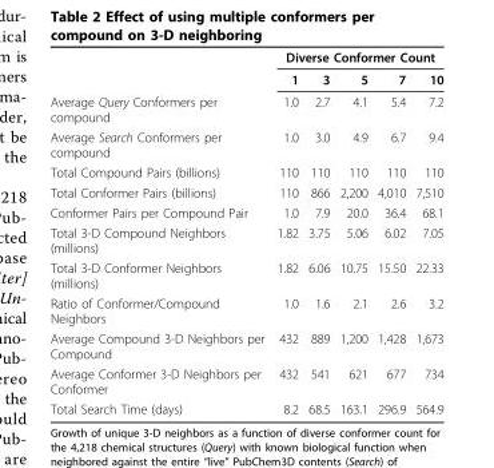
<table><thead><tr><td rowspan="2"></td><td colspan="5">Diverse Conformer Count</td></tr><tr><td>1</td><td>3</td><td>5</td><td>7</td><td>10</td></tr></thead><tbody><tr><td>Average Query Conformers per compound</td><td>1.0</td><td>2.7</td><td>4.1</td><td>5.4</td><td>7.2</td></tr><tr><td>Average Search Conformers per compound</td><td>1.0</td><td>3.0</td><td>4.9</td><td>6.7</td><td>9.4</td></tr><tr><td>Total Compound Pairs (billions)</td><td>110</td><td>110</td><td>110</td><td>110</td><td>110</td></tr><tr><td>Total Conformer Pairs (billions)</td><td>110</td><td>866</td><td>2,200</td><td>4,010</td><td>7,510</td></tr><tr><td>Conformer Pairs per Compound Pair</td><td>1.0</td><td>7.9</td><td>20.0</td><td>36.4</td><td>68.1</td></tr><tr><td>Total 3-D Compound Neighbors (millions)</td><td>1.82</td><td>3.75</td><td>5.06</td><td>6.02</td><td>7.05</td></tr><tr><td>Total 3-D Conformer Neighbors (millions)</td><td>1.82</td><td>6.06</td><td>10.75</td><td>15.50</td><td>22.33</td></tr><tr><td>Ratio of Conformer/Compound Neighbors</td><td>1.0</td><td>1.6</td><td>2.1</td><td>2.6</td><td>3.2</td></tr><tr><td>Average Compound 3-D Neighbors per Compound</td><td>432</td><td>889</td><td>1,200</td><td>1,428</td><td>1,673</td></tr><tr><td>Average Conformer 3-D Neighbors per Conformer</td><td>432</td><td>541</td><td>621</td><td>677</td><td>734</td></tr><tr><td>Total Search Time (days)</td><td>8.2</td><td>68.5</td><td>163.1</td><td>296.9</td><td>564.9</td></tr></tbody></table>